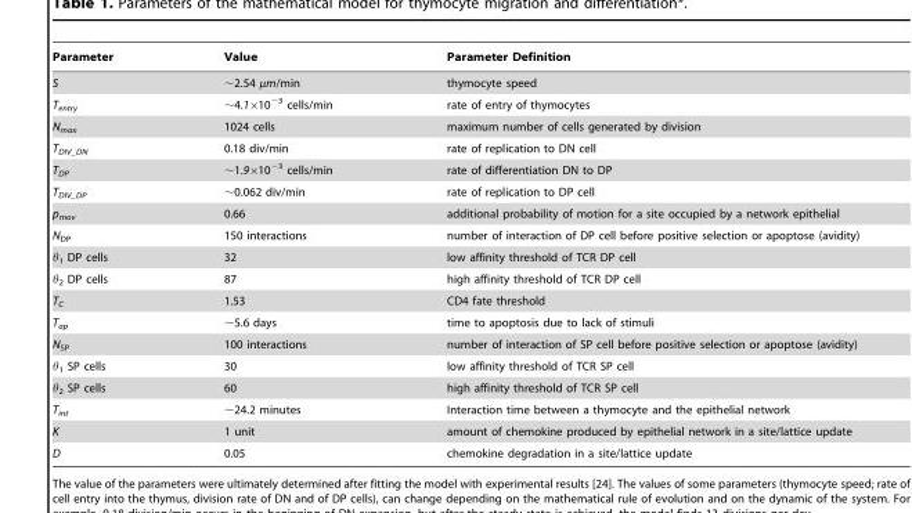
<table><thead><tr><td>Parameter</td><td>Value</td><td>Parameter Definition</td></tr></thead><tbody><tr><td>S</td><td>∼2.54 µm/min</td><td>thymocyte speed</td></tr><tr><td>T<sub>entry</sub></td><td>∼4.1×10<sup>−3</sup> cells/min</td><td>rate of entry of thymocytes</td></tr><tr><td>N<sub>max</sub></td><td>1024 cells</td><td>maximum number of cells generated by division</td></tr><tr><td>T<sub>DIV_DN</sub></td><td>0.18 div/min</td><td>rate of replication to DN cell</td></tr><tr><td>T<sub>DP</sub></td><td>∼1.9×10<sup>−3</sup> cells/min</td><td>rate of differentiation DN to DP</td></tr><tr><td>T<sub>DIV_DP</sub></td><td>∼0.062 div/min</td><td>rate of replication to DP cell</td></tr><tr><td>p<sub>mov</sub></td><td>0.66</td><td>additional probability of motion for a site occupied by a network epithelial</td></tr><tr><td>N<sub>DP</sub></td><td>150 interactions</td><td>number of interaction of DP cell before positive selection or apoptose (avidity)</td></tr><tr><td>θ<sub>1</sub> DP cells</td><td>32</td><td>low affinity threshold of TCR DP cell</td></tr><tr><td>θ<sub>2</sub> DP cells</td><td>87</td><td>high affinity threshold of TCR DP cell</td></tr><tr><td>T<sub>C</sub></td><td>1.53</td><td>CD4 fate threshold</td></tr><tr><td>T<sub>ap</sub></td><td>∼5.6 days</td><td>time to apoptosis due to lack of stimuli</td></tr><tr><td>N<sub>SP</sub></td><td>100 interactions</td><td>number of interaction of SP cell before positive selection or apoptose (avidity)</td></tr><tr><td>θ<sub>1</sub> SP cells</td><td>30</td><td>low affinity threshold of TCR SP cell</td></tr><tr><td>θ<sub>2</sub> SP cells</td><td>60</td><td>high affinity threshold of TCR SP cell</td></tr><tr><td>T<sub>int</sub></td><td>∼24.2 minutes</td><td>Interaction time between a thymocyte and the epithelial network</td></tr><tr><td>K</td><td>1 unit</td><td>amount of chemokine produced by epithelial network in a site/lattice update</td></tr><tr><td>D</td><td>0.05</td><td>chemokine degradation in a site/lattice update</td></tr></tbody></table>